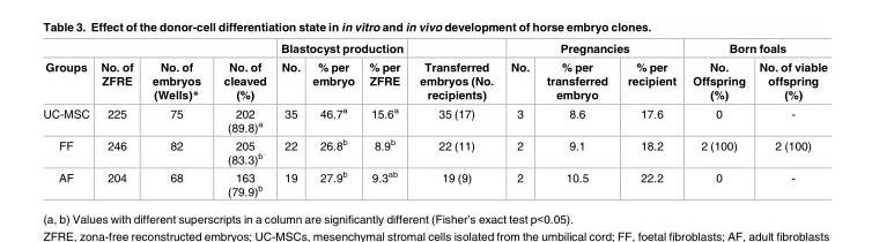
<table><thead><tr><td rowspan="2">Groups</td><td rowspan="2">No. of ZFRE</td><td rowspan="2">No. of embryos (Wells)*</td><td rowspan="2">No. of cleaved (%)</td><td colspan="3">Blastocyst production</td><td rowspan="2">Transferred embryos (No. recipients)</td><td colspan="3">Pregnancies</td><td colspan="2">Born foals</td></tr><tr><td>No.</td><td>% per embryo</td><td>% per ZFRE</td><td>No.</td><td>% per transferred embryo</td><td>% per recipient</td><td>No. Offspring (%)</td><td>No. of viable offspring (%)</td></tr></thead><tbody><tr><td>UC-MSC</td><td>225</td><td>75</td><td>202 (89.8)<sup>a</sup></td><td>35</td><td>46.7<sup>a</sup></td><td>15.6<sup>a</sup></td><td>35 (17)</td><td>3</td><td>8.6</td><td>17.6</td><td>0</td><td>-</td></tr><tr><td>FF</td><td>246</td><td>82</td><td>205 (83.3)<sup>b</sup></td><td>22</td><td>26.8<sup>b</sup></td><td>8.9<sup>b</sup></td><td>22 (11)</td><td>2</td><td>9.1</td><td>18.2</td><td>2 (100)</td><td>2 (100)</td></tr><tr><td>AF</td><td>204</td><td>68</td><td>163 (79.9)<sup>b</sup></td><td>19</td><td>27.9<sup>b</sup></td><td>9.3<sup>ab</sup></td><td>19 (9)</td><td>2</td><td>10.5</td><td>22.2</td><td>0</td><td>-</td></tr></tbody></table>